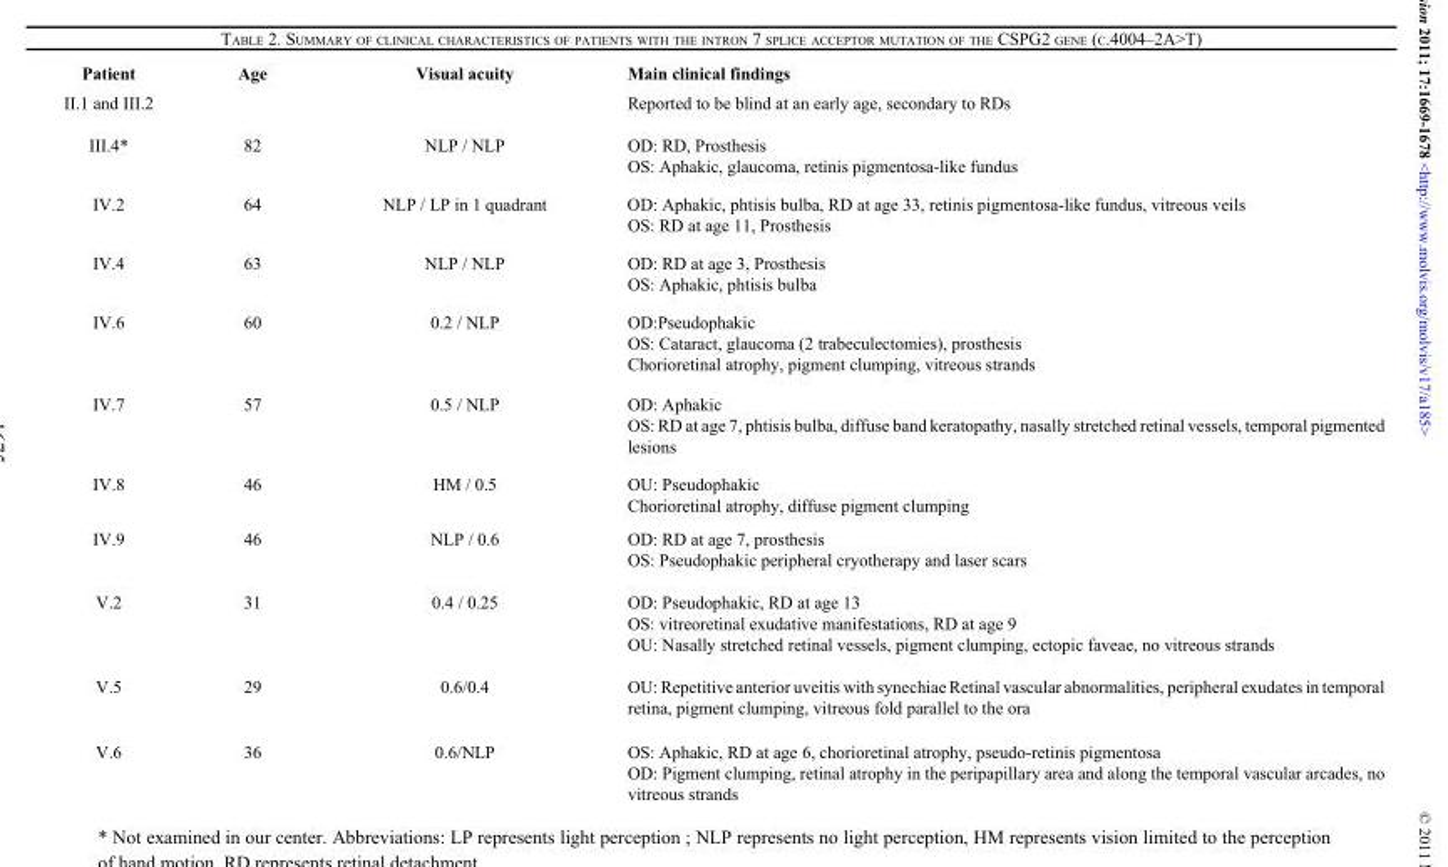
<table><thead><tr><td>Patient</td><td>Age</td><td>Visual acuity</td><td>Main clinical findings</td></tr></thead><tbody><tr><td>II.1 and III.2</td><td></td><td></td><td>Reported to be blind at an early age, secondary to RDs</td></tr><tr><td>III.4*</td><td>82</td><td>NLP / NLP</td><td>OD: RD, Prosthesis OS: Aphakic, glaucoma, retinis pigmentosa-like fundus</td></tr><tr><td>IV.2</td><td>64</td><td>NLP / LP in 1 quadrant</td><td>OD: Aphakic, phtisis bulba, RD at age 33, retinis pigmentosa-like fundus, vitreous veils OS: RD at age 11, Prosthesis</td></tr><tr><td>IV.4</td><td>63</td><td>NLP / NLP</td><td>OD: RD at age 3, Prosthesis OS: Aphakic, phtisis bulba</td></tr><tr><td>IV.6</td><td>60</td><td>0.2 / NLP</td><td>OD:Pseudophakic OS: Cataract, glaucoma (2 trabeculectomies), prosthesis Chorioretinal atrophy, pigment clumping, vitreous strands</td></tr><tr><td>IV.7</td><td>57</td><td>0.5 / NLP</td><td>OD: Aphakic OS: RD at age 7, phtisis bulba, diffuse band keratopathy, nasally stretched retinal vessels, temporal pigmented lesions</td></tr><tr><td>IV.8</td><td>46</td><td>HM / 0.5</td><td>OU: Pseudophakic Chorioretinal atrophy, diffuse pigment clumping</td></tr><tr><td>IV.9</td><td>46</td><td>NLP / 0.6</td><td>OD: RD at age 7, prosthesis OS: Pseudophakic peripheral cryotherapy and laser scars</td></tr><tr><td>V.2</td><td>31</td><td>0.4 / 0.25</td><td>OD: Pseudophakic, RD at age 13 OS: vitreoretinal exudative manifestations, RD at age 9 OU: Nasally stretched retinal vessels, pigment clumping, ectopic faveae, no vitreous strands</td></tr><tr><td>V.5</td><td>29</td><td>0.6/0.4</td><td>OU: Repetitive anterior uveitis with synechiae Retinal vascular abnormalities, peripheral exudates in temporal retina, pigment clumping, vitreous fold parallel to the ora</td></tr><tr><td>V.6</td><td>36</td><td>0.6/NLP</td><td>OS: Aphakic, RD at age 6, chorioretinal atrophy, pseudo-retinis pigmentosa OD: Pigment clumping, retinal atrophy in the peripapillary area and along the temporal vascular arcades, no vitreous strands</td></tr></tbody></table>